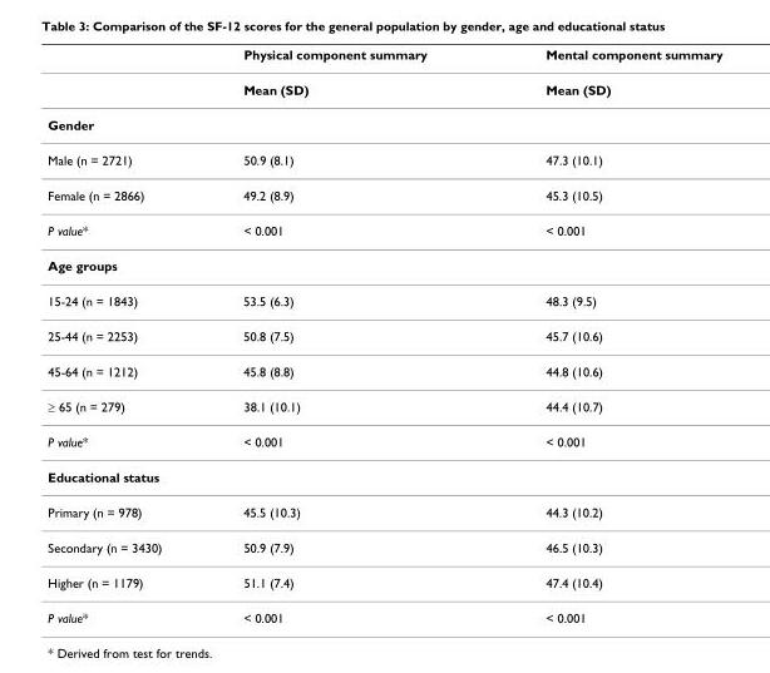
<table><thead><tr><td></td><td>Physical component summary</td><td>Mental component summary</td></tr></thead><tbody><tr><td></td><td>Mean (SD)</td><td>Mean (SD)</td></tr><tr><td colspan="3">Gender</td></tr><tr><td>Male (n = 2721)</td><td>50.9 (8.1)</td><td>47.3 (10.1)</td></tr><tr><td>Female (n = 2866)</td><td>49.2 (8.9)</td><td>45.3 (10.5)</td></tr><tr><td>P value*</td><td>&lt; 0.001</td><td>&lt; 0.001</td></tr><tr><td colspan="3">Age groups</td></tr><tr><td>15-24 (n = 1843)</td><td>53.5 (6.3)</td><td>48.3 (9.5)</td></tr><tr><td>25-44 (n = 2253)</td><td>50.8 (7.5)</td><td>45.7 (10.6)</td></tr><tr><td>45-64 (n = 1212)</td><td>45.8 (8.8)</td><td>44.8 (10.6)</td></tr><tr><td>≥ 65 (n = 279)</td><td>38.1 (10.1)</td><td>44.4 (10.7)</td></tr><tr><td>P value*</td><td>&lt; 0.001</td><td>&lt; 0.001</td></tr><tr><td colspan="3">Educational status</td></tr><tr><td>Primary (n = 978)</td><td>45.5 (10.3)</td><td>44.3 (10.2)</td></tr><tr><td>Secondary (n = 3430)</td><td>50.9 (7.9)</td><td>46.5 (10.3)</td></tr><tr><td>Higher (n = 1179)</td><td>51.1 (7.4)</td><td>47.4 (10.4)</td></tr><tr><td>P value*</td><td>&lt; 0.001</td><td>&lt; 0.001</td></tr></tbody></table>